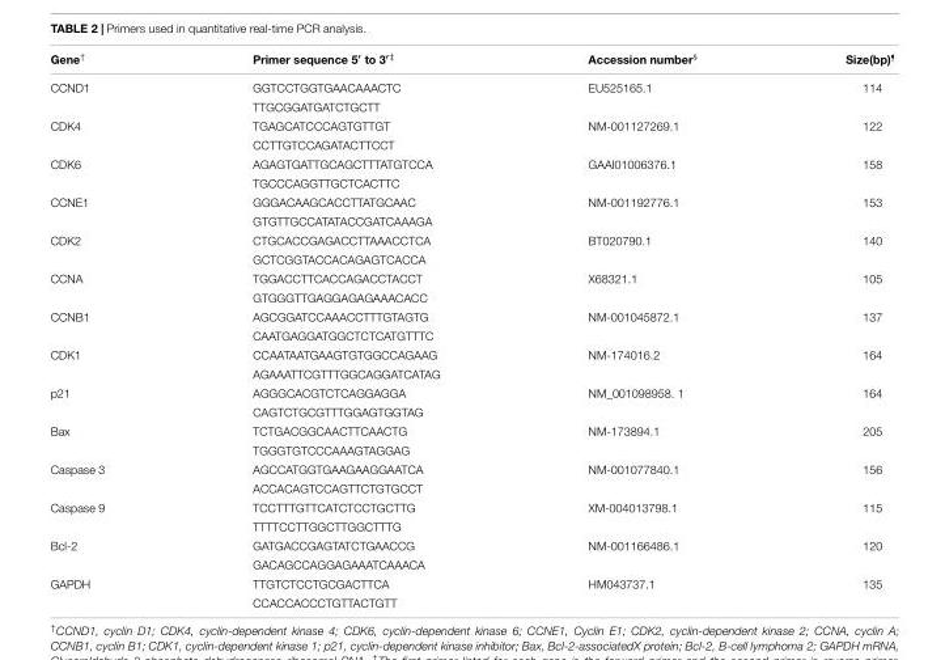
<table><thead><tr><td>Gene<sup>†</sup></td><td>Primer sequence 5′ to 3′<sup>‡</sup></td><td>Accession number<sup>§</sup></td><td>Size(bp)<sup>¶</sup></td></tr></thead><tbody><tr><td rowspan="2">CCND1</td><td>GGTCCTGGTGAACAAACTC</td><td>EU525165.1</td><td>114</td></tr><tr><td>TTGCGGATGATCTGCTT</td><td></td><td></td></tr><tr><td rowspan="2">CDK4</td><td>TGAGCATCCCAGTGTTGT</td><td>NM-001127269.1</td><td>122</td></tr><tr><td>CCTTGTCCAGATACTTCCT</td><td></td><td></td></tr><tr><td rowspan="2">CDK6</td><td>AGAGTGATTGCAGCTTTATGTCCA</td><td>GAAI01006376.1</td><td>158</td></tr><tr><td>TGCCCAGGTTGCTCACTTC</td><td></td><td></td></tr><tr><td rowspan="2">CCNE1</td><td>GGGACAAGCACCTTATGCAAC</td><td>NM-001192776.1</td><td>153</td></tr><tr><td>GTGTTGCCATATACCGATCAAAGA</td><td></td><td></td></tr><tr><td rowspan="2">CDK2</td><td>CTGCACCGAGACCTTAAACCTCA</td><td>BT020790.1</td><td>140</td></tr><tr><td>GCTCGGTACCACAGAGTCACCA</td><td></td><td></td></tr><tr><td rowspan="2">CCNA</td><td>TGGACCTTCACCAGACCTACCT</td><td>X68321.1</td><td>105</td></tr><tr><td>GTGGGTTGAGGAGAGAAACACC</td><td></td><td></td></tr><tr><td rowspan="2">CCNB1</td><td>AGCGGATCCAAACCTTTGTAGTG</td><td>NM-001045872.1</td><td>137</td></tr><tr><td>CAATGAGGATGGCTCTCATGTTTC</td><td></td><td></td></tr><tr><td rowspan="2">CDK1</td><td>CCAATAATGAAGTGTGGCCAGAAG</td><td>NM-174016.2</td><td>164</td></tr><tr><td>AGAAATTCGTTTGGCAGGATCATAG</td><td></td><td></td></tr><tr><td rowspan="2">p21</td><td>AGGGCACGTCTCAGGAGGA</td><td>NM_001098958. 1</td><td>164</td></tr><tr><td>CAGTCTGCGTTTGGAGTGGTAG</td><td></td><td></td></tr><tr><td rowspan="2">Bax</td><td>TCTGACGGCAACTTCAACTG</td><td>NM-173894.1</td><td>205</td></tr><tr><td>TGGGTGTCCCAAAGTAGGAG</td><td></td><td></td></tr><tr><td rowspan="2">Caspase 3</td><td>AGCCATGGTGAAGAAGGAATCA</td><td>NM-001077840.1</td><td>156</td></tr><tr><td>ACCACAGTCCAGTTCTGTGCCT</td><td></td><td></td></tr><tr><td rowspan="2">Caspase 9</td><td>TCCTTTGTTCATCTCCTGCTTG</td><td>XM-004013798.1</td><td>115</td></tr><tr><td>TTTTCCTTGGCTTGGCTTTG</td><td></td><td></td></tr><tr><td rowspan="2">Bcl-2</td><td>GATGACCGAGTATCTGAACCG</td><td>NM-001166486.1</td><td>120</td></tr><tr><td>GACAGCCAGGAGAAATCAAACA</td><td></td><td></td></tr><tr><td rowspan="2">GAPDH</td><td>TTGTCTCCTGCGACTTCA</td><td>HM043737.1</td><td>135</td></tr><tr><td>CCACCACCCTGTTACTGTT</td><td></td><td></td></tr></tbody></table>